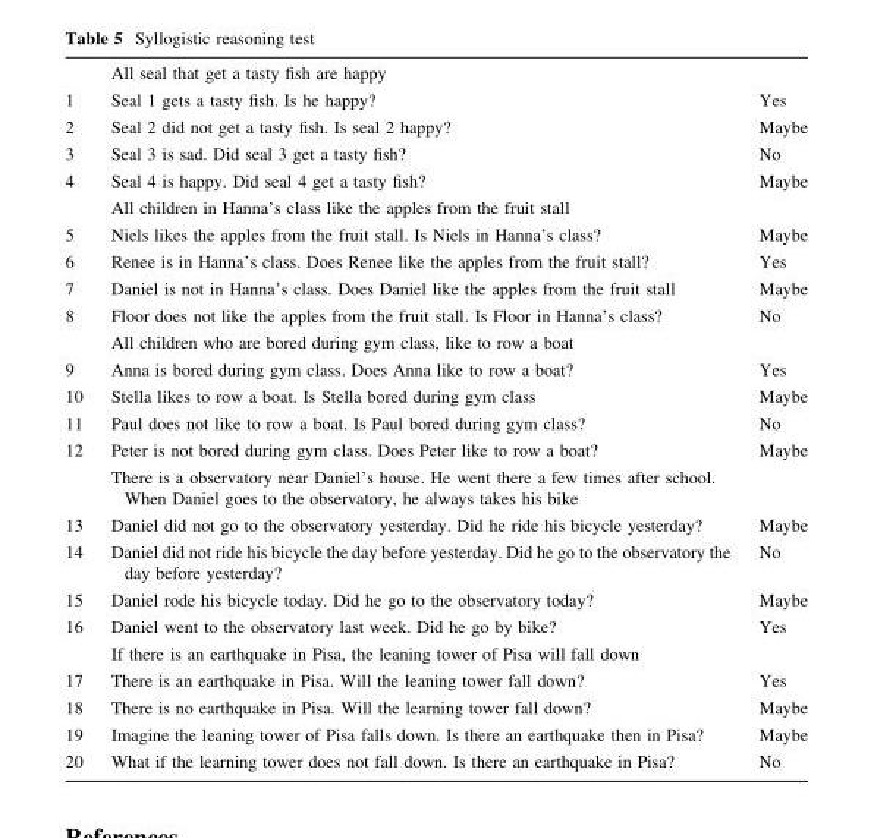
<table><thead><tr><td rowspan="2">1</td><td colspan="2">All seal that get a tasty fish are happy</td></tr><tr><td>Seal 1 gets a tasty fish. Is he happy?</td><td>Yes</td></tr></thead><tbody><tr><td>2</td><td>Seal 2 did not get a tasty fish. Is seal 2 happy?</td><td>Maybe</td></tr><tr><td>3</td><td>Seal 3 is sad. Did seal 3 get a tasty fish?</td><td>No</td></tr><tr><td rowspan="2">4</td><td>Seal 4 is happy. Did seal 4 get a tasty fish?</td><td>Maybe</td></tr><tr><td colspan="2">All children in Hanna’s class like the apples from the fruit stall</td></tr><tr><td>5</td><td>Niels likes the apples from the fruit stall. Is Niels in Hanna’s class?</td><td>Maybe</td></tr><tr><td>6</td><td>Renee is in Hanna’s class. Does Renee like the apples from the fruit stall?</td><td>Yes</td></tr><tr><td>7</td><td>Daniel is not in Hanna’s class. Does Daniel like the apples from the fruit stall</td><td>Maybe</td></tr><tr><td rowspan="2">8</td><td>Floor does not like the apples from the fruit stall. Is Floor in Hanna’s class?</td><td>No</td></tr><tr><td colspan="2">All children who are bored during gym class, like to row a boat</td></tr><tr><td>9</td><td>Anna is bored during gym class. Does Anna like to row a boat?</td><td>Yes</td></tr><tr><td>10</td><td>Stella likes to row a boat. Is Stella bored during gym class</td><td>Maybe</td></tr><tr><td>11</td><td>Paul does not like to row a boat. Is Paul bored during gym class?</td><td>No</td></tr><tr><td rowspan="2">12</td><td>Peter is not bored during gym class. Does Peter like to row a boat?</td><td>Maybe</td></tr><tr><td colspan="2">There is a observatory near Daniel’s house. He went there a few times after school. When Daniel goes to the observatory, he always takes his bike</td></tr><tr><td>13</td><td>Daniel did not go to the observatory yesterday. Did he ride his bicycle yesterday?</td><td>Maybe</td></tr><tr><td>14</td><td>Daniel did not ride his bicycle the day before yesterday. Did he go to the observatory the day before yesterday?</td><td>No</td></tr><tr><td>15</td><td>Daniel rode his bicycle today. Did he go to the observatory today?</td><td>Maybe</td></tr><tr><td rowspan="2">16</td><td>Daniel went to the observatory last week. Did he go by bike?</td><td>Yes</td></tr><tr><td>If there is an earthquake in Pisa, the leaning tower of Pisa will fall down</td><td></td></tr><tr><td>17</td><td>There is an earthquake in Pisa. Will the leaning tower fall down?</td><td>Yes</td></tr><tr><td>18</td><td>There is no earthquake in Pisa. Will the learning tower fall down?</td><td>Maybe</td></tr><tr><td>19</td><td>Imagine the leaning tower of Pisa falls down. Is there an earthquake then in Pisa?</td><td>Maybe</td></tr><tr><td>20</td><td>What if the learning tower does not fall down. Is there an earthquake in Pisa?</td><td>No</td></tr></tbody></table>